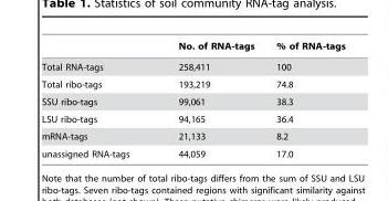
<table><thead><tr><td></td><td>No. of RNA-tags</td><td>% of RNA-tags</td></tr></thead><tbody><tr><td>Total RNA-tags</td><td>258,411</td><td>100</td></tr><tr><td>Total ribo-tags</td><td>193,219</td><td>74.8</td></tr><tr><td>SSU ribo-tags</td><td>99,061</td><td>38.3</td></tr><tr><td>LSU ribo-tags</td><td>94,165</td><td>36.4</td></tr><tr><td>mRNA-tags</td><td>21,133</td><td>8.2</td></tr><tr><td>unassigned RNA-tags</td><td>44,059</td><td>17.0</td></tr></tbody></table>